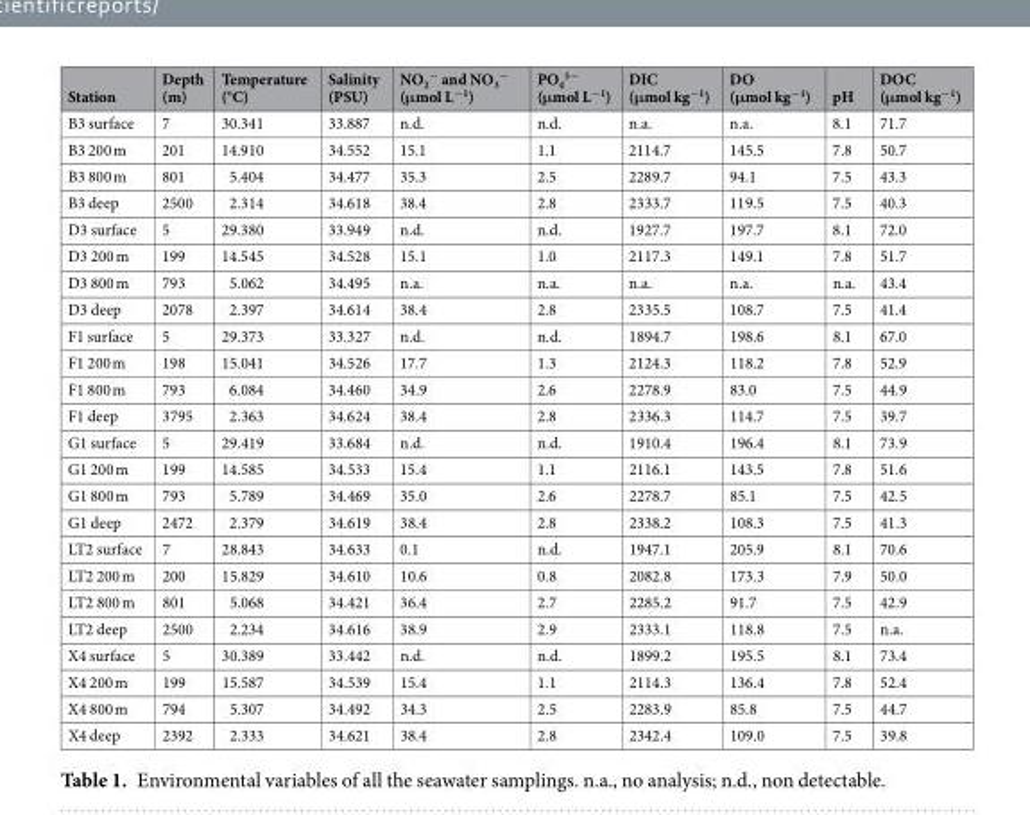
<table><thead><tr><td>Station</td><td>Depth (m)</td><td>Temperature (°C)</td><td>Salinity (PSU)</td><td>NO<sub>2</sub> <sup>−</sup> and NO<sub>3</sub> <sup>−</sup> (μmol L<sup>−1</sup>)</td><td>PO<sub>4</sub> <sup>3−</sup> (μmol L<sup>−1</sup>)</td><td>DIC (μmol kg<sup>−1</sup>)</td><td>DO (μmol kg<sup>−1</sup>)</td><td>pH</td><td>DOC (μmol kg<sup>−1</sup>)</td></tr></thead><tbody><tr><td>B3 surface</td><td>7</td><td>30.341</td><td>33.887</td><td>n.d.</td><td>n.d.</td><td>n.a.</td><td>n.a.</td><td>8.1</td><td>71.7</td></tr><tr><td>B3 200 m</td><td>201</td><td>14.910</td><td>34.552</td><td>15.1</td><td>1.1</td><td>2114.7</td><td>145.5</td><td>7.8</td><td>50.7</td></tr><tr><td>B3 800 m</td><td>801</td><td>5.404</td><td>34.477</td><td>35.3</td><td>2.5</td><td>2289.7</td><td>94.1</td><td>7.5</td><td>43.3</td></tr><tr><td>B3 deep</td><td>2500</td><td>2.314</td><td>34.618</td><td>38.4</td><td>2.8</td><td>2333.7</td><td>119.5</td><td>7.5</td><td>40.3</td></tr><tr><td>D3 surface</td><td>5</td><td>29.380</td><td>33.949</td><td>n.d.</td><td>n.d.</td><td>1927.7</td><td>197.7</td><td>8.1</td><td>72.0</td></tr><tr><td>D3 200 m</td><td>199</td><td>14.545</td><td>34.528</td><td>15.1</td><td>1.0</td><td>2117.3</td><td>149.1</td><td>7.8</td><td>51.7</td></tr><tr><td>D3 800 m</td><td>793</td><td>5.062</td><td>34.495</td><td>n.a.</td><td>n.a.</td><td>n.a.</td><td>n.a.</td><td>n.a.</td><td>43.4</td></tr><tr><td>D3 deep</td><td>2078</td><td>2.397</td><td>34.614</td><td>38.4</td><td>2.8</td><td>2335.5</td><td>108.7</td><td>7.5</td><td>41.4</td></tr><tr><td>F1 surface</td><td>5</td><td>29.373</td><td>33.327</td><td>n.d.</td><td>n.d.</td><td>1894.7</td><td>198.6</td><td>8.1</td><td>67.0</td></tr><tr><td>F1 200 m</td><td>198</td><td>15.041</td><td>34.526</td><td>17.7</td><td>1.3</td><td>2124.3</td><td>118.2</td><td>7.8</td><td>52.9</td></tr><tr><td>F1 800 m</td><td>793</td><td>6.084</td><td>34.460</td><td>34.9</td><td>2.6</td><td>2278.9</td><td>83.0</td><td>7.5</td><td>44.9</td></tr><tr><td>F1 deep</td><td>3795</td><td>2.363</td><td>34.624</td><td>38.4</td><td>2.8</td><td>2336.3</td><td>114.7</td><td>7.5</td><td>39.7</td></tr><tr><td>G1 surface</td><td>5</td><td>29.419</td><td>33.684</td><td>n.d.</td><td>n.d.</td><td>1910.4</td><td>196.4</td><td>8.1</td><td>73.9</td></tr><tr><td>G1 200 m</td><td>199</td><td>14.585</td><td>34.533</td><td>15.4</td><td>1.1</td><td>2116.1</td><td>143.5</td><td>7.8</td><td>51.6</td></tr><tr><td>G1 800 m</td><td>793</td><td>5.789</td><td>34.469</td><td>35.0</td><td>2.6</td><td>2278.7</td><td>85.1</td><td>7.5</td><td>42.5</td></tr><tr><td>G1 deep</td><td>2472</td><td>2.379</td><td>34.619</td><td>38.4</td><td>2.8</td><td>2338.2</td><td>108.3</td><td>7.5</td><td>41.3</td></tr><tr><td>LT2 surface</td><td>7</td><td>28.843</td><td>34.633</td><td>0.1</td><td>n.d.</td><td>1947.1</td><td>205.9</td><td>8.1</td><td>70.6</td></tr><tr><td>LT2 200 m</td><td>200</td><td>15.829</td><td>34.610</td><td>10.6</td><td>0.8</td><td>2082.8</td><td>173.3</td><td>7.9</td><td>50.0</td></tr><tr><td>LT2 800 m</td><td>801</td><td>5.068</td><td>34.421</td><td>36.4</td><td>2.7</td><td>2285.2</td><td>91.7</td><td>7.5</td><td>42.9</td></tr><tr><td>LT2 deep</td><td>2500</td><td>2.234</td><td>34.616</td><td>38.9</td><td>2.9</td><td>2333.1</td><td>118.8</td><td>7.5</td><td>n.a.</td></tr><tr><td>X4 surface</td><td>5</td><td>30.389</td><td>33.442</td><td>n.d.</td><td>n.d.</td><td>1899.2</td><td>195.5</td><td>8.1</td><td>73.4</td></tr><tr><td>X4 200 m</td><td>199</td><td>15.587</td><td>34.539</td><td>15.4</td><td>1.1</td><td>2114.3</td><td>136.4</td><td>7.8</td><td>52.4</td></tr><tr><td>X4 800 m</td><td>794</td><td>5.307</td><td>34.492</td><td>34.3</td><td>2.5</td><td>2283.9</td><td>85.8</td><td>7.5</td><td>44.7</td></tr><tr><td>X4 deep</td><td>2392</td><td>2.333</td><td>34.621</td><td>38.4</td><td>2.8</td><td>2342.4</td><td>109.0</td><td>7.5</td><td>39.8</td></tr></tbody></table>